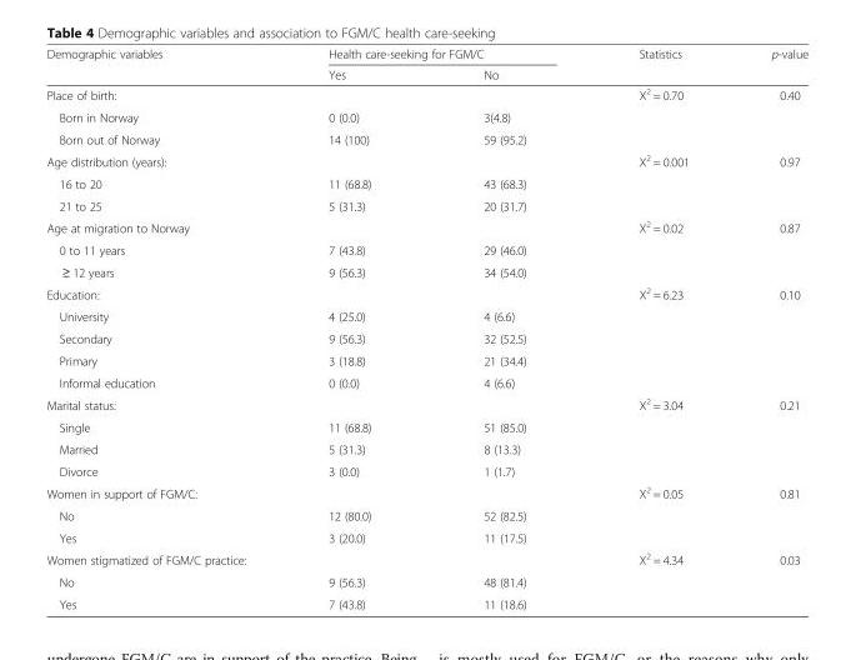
<table><thead><tr><td rowspan="2">Demographic variables</td><td colspan="2">Health care-seeking for FGM/C</td><td rowspan="2">Statistics</td><td rowspan="2">p-value</td></tr><tr><td>Yes</td><td>No</td></tr></thead><tbody><tr><td>Place of birth:</td><td></td><td></td><td>X<sup>2</sup> = 0.70</td><td>0.40</td></tr><tr><td>Born in Norway</td><td>0 (0.0)</td><td>3(4.8)</td><td></td><td></td></tr><tr><td>Born out of Norway</td><td>14 (100)</td><td>59 (95.2)</td><td></td><td></td></tr><tr><td>Age distribution (years):</td><td></td><td></td><td>X<sup>2</sup> = 0.001</td><td>0.97</td></tr><tr><td>16 to 20</td><td>11 (68.8)</td><td>43 (68.3)</td><td></td><td></td></tr><tr><td>21 to 25</td><td>5 (31.3)</td><td>20 (31.7)</td><td></td><td></td></tr><tr><td>Age at migration to Norway</td><td></td><td></td><td>X<sup>2</sup> = 0.02</td><td>0.87</td></tr><tr><td>0 to 11 years</td><td>7 (43.8)</td><td>29 (46.0)</td><td></td><td></td></tr><tr><td>≥ 12 years</td><td>9 (56.3)</td><td>34 (54.0)</td><td></td><td></td></tr><tr><td>Education:</td><td></td><td></td><td>X<sup>2</sup> = 6.23</td><td>0.10</td></tr><tr><td>University</td><td>4 (25.0)</td><td>4 (6.6)</td><td></td><td></td></tr><tr><td>Secondary</td><td>9 (56.3)</td><td>32 (52.5)</td><td></td><td></td></tr><tr><td>Primary</td><td>3 (18.8)</td><td>21 (34.4)</td><td></td><td></td></tr><tr><td>Informal education</td><td>0 (0.0)</td><td>4 (6.6)</td><td></td><td></td></tr><tr><td>Marital status:</td><td></td><td></td><td>X<sup>2</sup> = 3.04</td><td>0.21</td></tr><tr><td>Single</td><td>11 (68.8)</td><td>51 (85.0)</td><td></td><td></td></tr><tr><td>Married</td><td>5 (31.3)</td><td>8 (13.3)</td><td></td><td></td></tr><tr><td>Divorce</td><td>3 (0.0)</td><td>1 (1.7)</td><td></td><td></td></tr><tr><td>Women in support of FGM/C:</td><td></td><td></td><td>X<sup>2</sup> = 0.05</td><td>0.81</td></tr><tr><td>No</td><td>12 (80.0)</td><td>52 (82.5)</td><td></td><td></td></tr><tr><td>Yes</td><td>3 (20.0)</td><td>11 (17.5)</td><td></td><td></td></tr><tr><td>Women stigmatized of FGM/C practice:</td><td></td><td></td><td>X<sup>2</sup> = 4.34</td><td>0.03</td></tr><tr><td>No</td><td>9 (56.3)</td><td>48 (81.4)</td><td></td><td></td></tr><tr><td>Yes</td><td>7 (43.8)</td><td>11 (18.6)</td><td></td><td></td></tr></tbody></table>